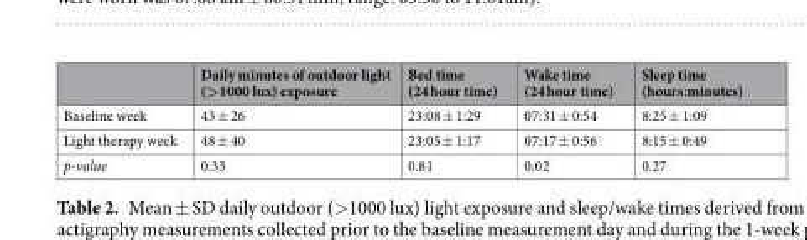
<table><thead><tr><td></td><td>Daily minutes of outdoor light (&gt;1000 lux) exposure</td><td>Bed time (24 hour time)</td><td>Wake time (24 hour time)</td><td>Sleep time (hours:minutes)</td></tr></thead><tbody><tr><td>Baseline week</td><td>43 ± 26</td><td>23:08 ± 1:29</td><td>07:31 ± 0:54</td><td>8:25 ± 1:09</td></tr><tr><td>Light therapy week</td><td>48 ± 40</td><td>23:05 ± 1:17</td><td>07:17 ± 0:56</td><td>8:15 ± 0:49</td></tr><tr><td>p-value</td><td>0.33</td><td>0.81</td><td>0.02</td><td>0.27</td></tr></tbody></table>